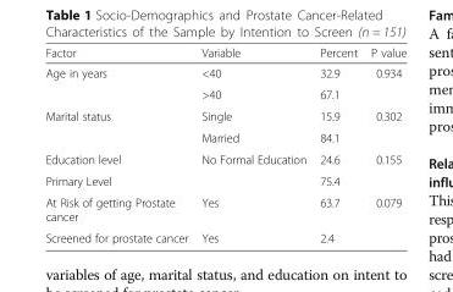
<table><thead><tr><td>Factor</td><td>Variable</td><td>Percent</td><td>P value</td></tr></thead><tbody><tr><td rowspan="2">Age in years</td><td>&lt;40</td><td>32.9</td><td>0.934</td></tr><tr><td>&gt;40</td><td>67.1</td><td></td></tr><tr><td rowspan="2">Marital status</td><td>Single</td><td>15.9</td><td>0.302</td></tr><tr><td>Married</td><td>84.1</td><td></td></tr><tr><td>Education level</td><td>No Formal Education</td><td>24.6</td><td>0.155</td></tr><tr><td>Primary Level</td><td></td><td>75.4</td><td></td></tr><tr><td>At Risk of getting Prostate cancer</td><td>Yes</td><td>63.7</td><td>0.079</td></tr><tr><td>Screened for prostate cancer</td><td>Yes</td><td>2.4</td><td></td></tr></tbody></table>